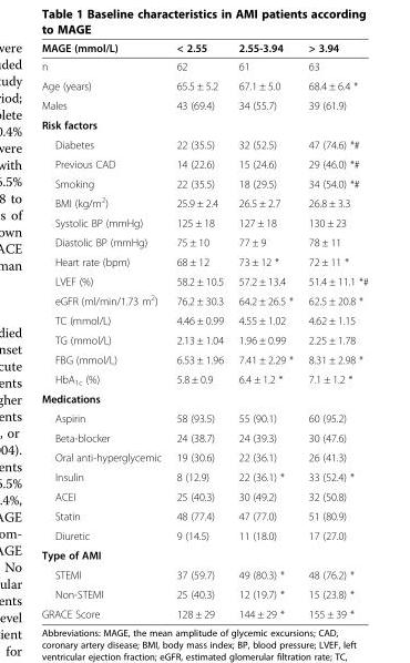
<table><thead><tr><td>MAGE (mmol/L)</td><td>&lt; 2.55</td><td>2.55-3.94</td><td>&gt; 3.94</td></tr></thead><tbody><tr><td>n</td><td>62</td><td>61</td><td>63</td></tr><tr><td>Age (years)</td><td>65.5 ± 5.2</td><td>67.1 ± 5.0</td><td>68.4 ± 6.4 *</td></tr><tr><td>Males</td><td>43 (69.4)</td><td>34 (55.7)</td><td>39 (61.9)</td></tr><tr><td colspan="4">Risk factors</td></tr><tr><td>Diabetes</td><td>22 (35.5)</td><td>32 (52.5)</td><td>47 (74.6) *#</td></tr><tr><td>Previous CAD</td><td>14 (22.6)</td><td>15 (24.6)</td><td>29 (46.0) *#</td></tr><tr><td>Smoking</td><td>22 (35.5)</td><td>18 (29.5)</td><td>34 (54.0) *#</td></tr><tr><td>BMI (kg/m<sup>2</sup>)</td><td>25.9 ± 2.4</td><td>26.5 ± 2.7</td><td>26.8 ± 3.3</td></tr><tr><td>Systolic BP (mmHg)</td><td>125 ± 18</td><td>127 ± 18</td><td>130 ± 23</td></tr><tr><td>Diastolic BP (mmHg)</td><td>75 ± 10</td><td>77 ± 9</td><td>78 ± 11</td></tr><tr><td>Heart rate (bpm)</td><td>68 ± 12</td><td>73 ± 12 *</td><td>72 ± 11 *</td></tr><tr><td>LVEF (%)</td><td>58.2 ± 10.5</td><td>57.2 ± 13.4</td><td>51.4 ± 11.1 *#</td></tr><tr><td>eGFR (ml/min/1.73 m<sup>2</sup>)</td><td>76.2 ± 30.3</td><td>64.2 ± 26.5 *</td><td>62.5 ± 20.8 *</td></tr><tr><td>TC (mmol/L)</td><td>4.46 ± 0.99</td><td>4.55 ± 1.02</td><td>4.62 ± 1.15</td></tr><tr><td>TG (mmol/L)</td><td>2.13 ± 1.04</td><td>1.96 ± 0.99</td><td>2.25 ± 1.78</td></tr><tr><td>FBG (mmol/L)</td><td>6.53 ± 1.96</td><td>7.41 ± 2.29 *</td><td>8.31 ± 2.98 *</td></tr><tr><td>HbA<sub>1c</sub> (%)</td><td>5.8 ± 0.9</td><td>6.4 ± 1.2 *</td><td>7.1 ± 1.2 *</td></tr><tr><td colspan="4">Medications</td></tr><tr><td>Aspirin</td><td>58 (93.5)</td><td>55 (90.1)</td><td>60 (95.2)</td></tr><tr><td>Beta-blocker</td><td>24 (38.7)</td><td>24 (39.3)</td><td>30 (47.6)</td></tr><tr><td>Oral anti-hyperglycemic</td><td>19 (30.6)</td><td>22 (36.1)</td><td>26 (41.3)</td></tr><tr><td>Insulin</td><td>8 (12.9)</td><td>22 (36.1) *</td><td>33 (52.4) *</td></tr><tr><td>ACEI</td><td>25 (40.3)</td><td>30 (49.2)</td><td>32 (50.8)</td></tr><tr><td>Statin</td><td>48 (77.4)</td><td>47 (77.0)</td><td>51 (80.9)</td></tr><tr><td>Diuretic</td><td>9 (14.5)</td><td>11 (18.0)</td><td>17 (27.0)</td></tr><tr><td colspan="4">Type of AMI</td></tr><tr><td>STEMI</td><td>37 (59.7)</td><td>49 (80.3) *</td><td>48 (76.2) *</td></tr><tr><td>Non-STEMI</td><td>25 (40.3)</td><td>12 (19.7) *</td><td>15 (23.8) *</td></tr><tr><td>GRACE Score</td><td>128 ± 29</td><td>144 ± 29 *</td><td>155 ± 39 *</td></tr></tbody></table>